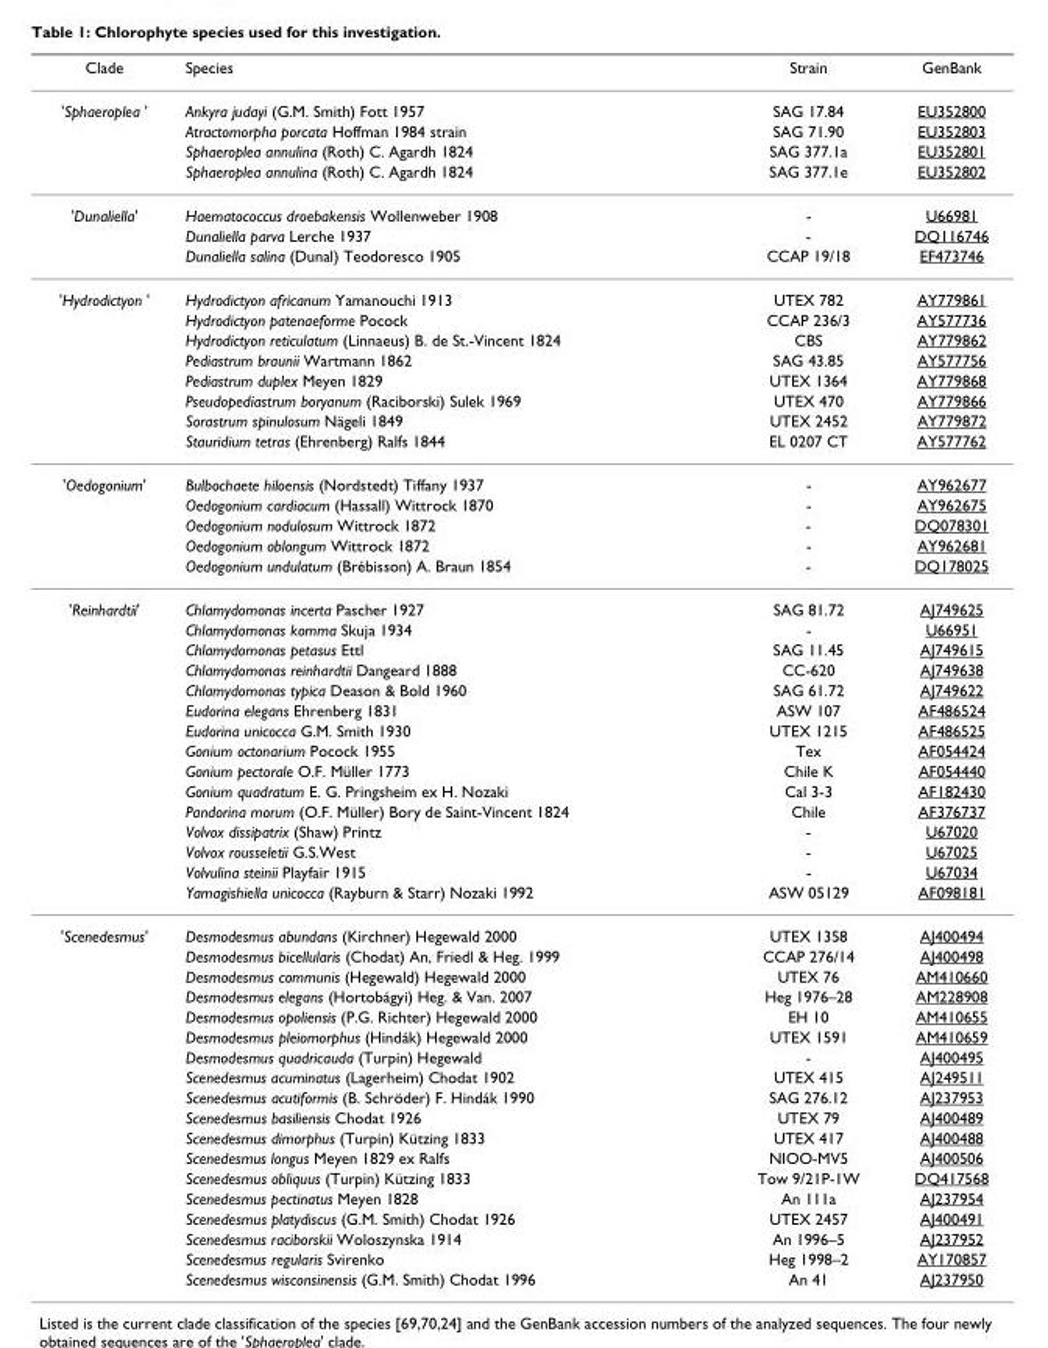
<table><thead><tr><td>Clade</td><td>Species</td><td>Strain</td><td>GenBank</td></tr></thead><tbody><tr><td rowspan="4">&#x27;Sphaeroplea &#x27;</td><td>Ankyra judayi (G.M. Smith) Fott 1957</td><td>SAG 17.84</td><td>EU352800</td></tr><tr><td>Atractomorpha porcata Hoffman 1984 strain</td><td>SAG 71.90</td><td>EU352803</td></tr><tr><td>Sphaeroplea annulina (Roth) C. Agardh 1824</td><td>SAG 377.1a</td><td>EU352801</td></tr><tr><td>Sphaeroplea annulina (Roth) C. Agardh 1824</td><td>SAG 377.1e</td><td>EU352802</td></tr><tr><td rowspan="3">&#x27;Dunaliella&#x27;</td><td>Haematococcus droebakensis Wollenweber 1908</td><td>-</td><td>U66981</td></tr><tr><td>Dunaliella parva Lerche 1937</td><td>-</td><td>DQ116746</td></tr><tr><td>Dunaliella salina (Dunal) Teodoresco 1905</td><td>CCAP 19/18</td><td>EF473746</td></tr><tr><td rowspan="8">&#x27;Hydrodictyon &#x27;</td><td>Hydrodictyon africanum Yamanouchi 1913</td><td>UTEX 782</td><td>AY779861</td></tr><tr><td>Hydrodictyon patenaeforme Pocock</td><td>CCAP 236/3</td><td>AY577736</td></tr><tr><td>Hydrodictyon reticulatum (Linnaeus) B. de St.-Vincent 1824</td><td>CBS</td><td>AY779862</td></tr><tr><td>Pediastrum braunii Wartmann 1862</td><td>SAG 43.85</td><td>AY577756</td></tr><tr><td>Pediastrum duplex Meyen 1829</td><td>UTEX 1364</td><td>AY779868</td></tr><tr><td>Pseudopediastrum boryanum (Raciborski) Sulek 1969</td><td>UTEX 470</td><td>AY779866</td></tr><tr><td>Sorastrum spinulosum Nägeli 1849</td><td>UTEX 2452</td><td>AY779872</td></tr><tr><td>Stauridium tetras (Ehrenberg) Ralfs 1844</td><td>EL 0207 CT</td><td>AY577762</td></tr><tr><td rowspan="5">&#x27;Oedogonium&#x27;</td><td>Bulbochaete hiloensis (Nordstedt) Tiffany 1937</td><td>-</td><td>AY962677</td></tr><tr><td>Oedogonium cardiacum (Hassall) Wittrock 1870</td><td>-</td><td>AY962675</td></tr><tr><td>Oedogonium nodulosum Wittrock 1872</td><td>-</td><td>DQ078301</td></tr><tr><td>Oedogonium oblongum Wittrock 1872</td><td>-</td><td>AY962681</td></tr><tr><td>Oedogonium undulatum (Brébisson) A. Braun 1854</td><td>-</td><td>DQ178025</td></tr><tr><td rowspan="15">&#x27;Reinhardtii&#x27;</td><td>Chlamydomonas incerta Pascher 1927</td><td>SAG 81.72</td><td>AJ749625</td></tr><tr><td>Chlamydomonas komma Skuja 1934</td><td>-</td><td>U66951</td></tr><tr><td>Chlamydomonas petasus Ettl</td><td>SAG 11.45</td><td>AJ749615</td></tr><tr><td>Chlamydomonas reinhardtii Dangeard 1888</td><td>CC-620</td><td>AJ749638</td></tr><tr><td>Chlamydomonas typica Deason &amp; Bold 1960</td><td>SAG 61.72</td><td>AJ749622</td></tr><tr><td>Eudorina elegans Ehrenberg 1831</td><td>ASW 107</td><td>AF486524</td></tr><tr><td>Eudorina unicocca G.M. Smith 1930</td><td>UTEX 1215</td><td>AF486525</td></tr><tr><td>Gonium octonarium Pocock 1955</td><td>Tex</td><td>AF054424</td></tr><tr><td>Gonium pectorale O.F. Müller 1773</td><td>Chile K</td><td>AF054440</td></tr><tr><td>Gonium quadratum E. G. Pringsheim ex H. Nozaki</td><td>Cal 3-3</td><td>AF182430</td></tr><tr><td>Pandorina morum (O.F. Müller) Bory de Saint-Vincent 1824</td><td>Chile</td><td>AF376737</td></tr><tr><td>Volvox dissipatrix (Shaw) Printz</td><td>-</td><td>U67020</td></tr><tr><td>Volvox rousseletii G.S.West</td><td>-</td><td>U67025</td></tr><tr><td>Volvulina steinii Playfair 1915</td><td>-</td><td>U67034</td></tr><tr><td>Yamagishiella unicocca (Rayburn &amp; Starr) Nozaki 1992</td><td>ASW 05129</td><td>AF098181</td></tr><tr><td rowspan="18">&#x27;Scenedesmus&#x27;</td><td>Desmodesmus abundans (Kirchner) Hegewald 2000</td><td>UTEX 1358</td><td>AJ400494</td></tr><tr><td>Desmodesmus bicellularis (Chodat) An, Friedl &amp; Heg. 1999</td><td>CCAP 276/14</td><td>AJ400498</td></tr><tr><td>Desmodesmus communis (Hegewald) Hegewald 2000</td><td>UTEX 76</td><td>AM410660</td></tr><tr><td>Desmodesmus elegans (Hortobágyi) Heg. &amp; Van. 2007</td><td>Heg 1976–28</td><td>AM228908</td></tr><tr><td>Desmodesmus opoliensis (P.G. Richter) Hegewald 2000</td><td>EH 10</td><td>AM410655</td></tr><tr><td>Desmodesmus pleiomorphus (Hindák) Hegewald 2000</td><td>UTEX 1591</td><td>AM410659</td></tr><tr><td>Desmodesmus quadricauda (Turpin) Hegewald</td><td>-</td><td>AJ400495</td></tr><tr><td>Scenedesmus acuminatus (Lagerheim) Chodat 1902</td><td>UTEX 415</td><td>AJ249511</td></tr><tr><td>Scenedesmus acutiformis (B. Schröder) F. Hindák 1990</td><td>SAG 276.12</td><td>AJ237953</td></tr><tr><td>Scenedesmus basiliensis Chodat 1926</td><td>UTEX 79</td><td>AJ400489</td></tr><tr><td>Scenedesmus dimorphus (Turpin) Kützing 1833</td><td>UTEX 417</td><td>AJ400488</td></tr><tr><td>Scenedesmus longus Meyen 1829 ex Ralfs</td><td>NIOO-MV5</td><td>AJ400506</td></tr><tr><td>Scenedesmus obliquus (Turpin) Kützing 1833</td><td>Tow 9/21P-1W</td><td>DQ417568</td></tr><tr><td>Scenedesmus pectinatus Meyen 1828</td><td>An 111a</td><td>AJ237954</td></tr><tr><td>Scenedesmus platydiscus (G.M. Smith) Chodat 1926</td><td>UTEX 2457</td><td>AJ400491</td></tr><tr><td>Scenedesmus raciborskii Woloszynska 1914</td><td>An 1996–5</td><td>AJ237952</td></tr><tr><td>Scenedesmus regularis Svirenko</td><td>Heg 1998–2</td><td>AY170857</td></tr><tr><td>Scenedesmus wisconsinensis (G.M. Smith) Chodat 1996</td><td>An 41</td><td>AJ237950</td></tr></tbody></table>